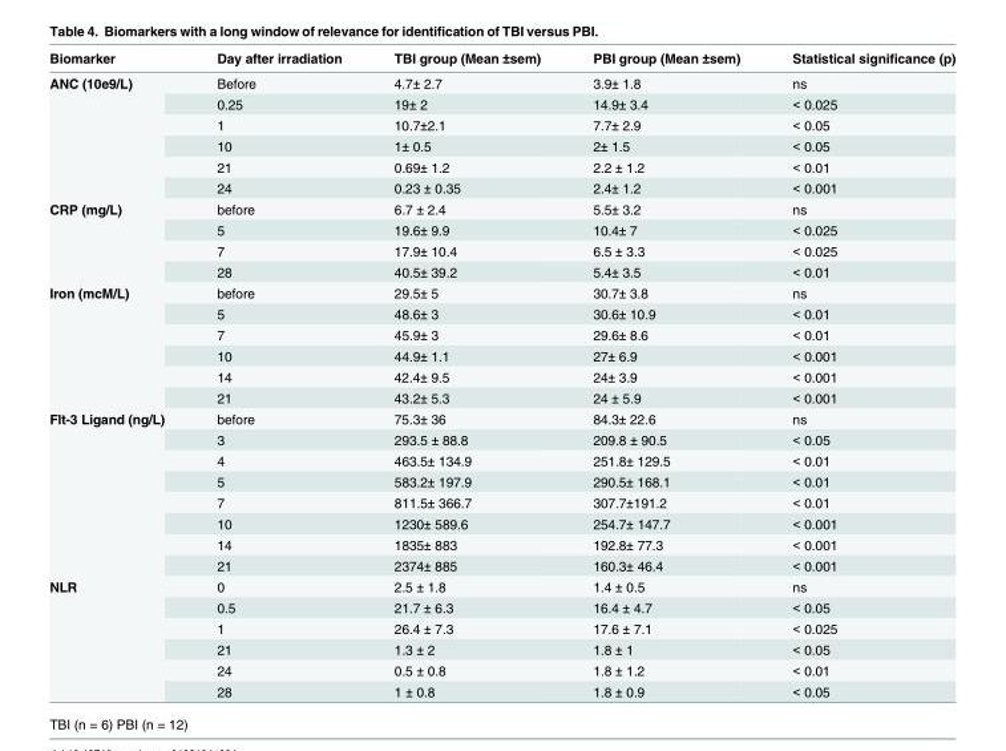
<table><thead><tr><td>Biomarker</td><td>Day after irradiation</td><td>TBI group (Mean ±sem)</td><td>PBI group (Mean ±sem)</td><td>Statistical significance (p)</td></tr></thead><tbody><tr><td rowspan="6">ANC (10e9/L)</td><td>Before</td><td>4.7± 2.7</td><td>3.9± 1.8</td><td>ns</td></tr><tr><td>0.25</td><td>19± 2</td><td>14.9± 3.4</td><td>&lt; 0.025</td></tr><tr><td>1</td><td>10.7±2.1</td><td>7.7± 2.9</td><td>&lt; 0.05</td></tr><tr><td>10</td><td>1± 0.5</td><td>2± 1.5</td><td>&lt; 0.05</td></tr><tr><td>21</td><td>0.69± 1.2</td><td>2.2 ± 1.2</td><td>&lt; 0.01</td></tr><tr><td>24</td><td>0.23 ± 0.35</td><td>2.4± 1.2</td><td>&lt; 0.001</td></tr><tr><td rowspan="4">CRP (mg/L)</td><td>before</td><td>6.7 ± 2.4</td><td>5.5± 3.2</td><td>ns</td></tr><tr><td>5</td><td>19.6± 9.9</td><td>10.4± 7</td><td>&lt; 0.025</td></tr><tr><td>7</td><td>17.9± 10.4</td><td>6.5 ± 3.3</td><td>&lt; 0.025</td></tr><tr><td>28</td><td>40.5± 39.2</td><td>5.4± 3.5</td><td>&lt; 0.01</td></tr><tr><td rowspan="6">Iron (mcM/L)</td><td>before</td><td>29.5± 5</td><td>30.7± 3.8</td><td>ns</td></tr><tr><td>5</td><td>48.6± 3</td><td>30.6± 10.9</td><td>&lt; 0.01</td></tr><tr><td>7</td><td>45.9± 3</td><td>29.6± 8.6</td><td>&lt; 0.01</td></tr><tr><td>10</td><td>44.9± 1.1</td><td>27± 6.9</td><td>&lt; 0.001</td></tr><tr><td>14</td><td>42.4± 9.5</td><td>24± 3.9</td><td>&lt; 0.001</td></tr><tr><td>21</td><td>43.2± 5.3</td><td>24 ± 5.9</td><td>&lt; 0.001</td></tr><tr><td rowspan="8">Flt-3 Ligand (ng/L)</td><td>before</td><td>75.3± 36</td><td>84.3± 22.6</td><td>ns</td></tr><tr><td>3</td><td>293.5 ± 88.8</td><td>209.8 ± 90.5</td><td>&lt; 0.05</td></tr><tr><td>4</td><td>463.5± 134.9</td><td>251.8± 129.5</td><td>&lt; 0.01</td></tr><tr><td>5</td><td>583.2± 197.9</td><td>290.5± 168.1</td><td>&lt; 0.01</td></tr><tr><td>7</td><td>811.5± 366.7</td><td>307.7±191.2</td><td>&lt; 0.01</td></tr><tr><td>10</td><td>1230± 589.6</td><td>254.7± 147.7</td><td>&lt; 0.001</td></tr><tr><td>14</td><td>1835± 883</td><td>192.8± 77.3</td><td>&lt; 0.001</td></tr><tr><td>21</td><td>2374± 885</td><td>160.3± 46.4</td><td>&lt; 0.001</td></tr><tr><td rowspan="6">NLR</td><td>0</td><td>2.5 ± 1.8</td><td>1.4 ± 0.5</td><td>ns</td></tr><tr><td>0.5</td><td>21.7 ± 6.3</td><td>16.4 ± 4.7</td><td>&lt; 0.05</td></tr><tr><td>1</td><td>26.4 ± 7.3</td><td>17.6 ± 7.1</td><td>&lt; 0.025</td></tr><tr><td>21</td><td>1.3 ± 2</td><td>1.8 ± 1</td><td>&lt; 0.05</td></tr><tr><td>24</td><td>0.5 ± 0.8</td><td>1.8 ± 1.2</td><td>&lt; 0.01</td></tr><tr><td>28</td><td>1 ± 0.8</td><td>1.8 ± 0.9</td><td>&lt; 0.05</td></tr></tbody></table>